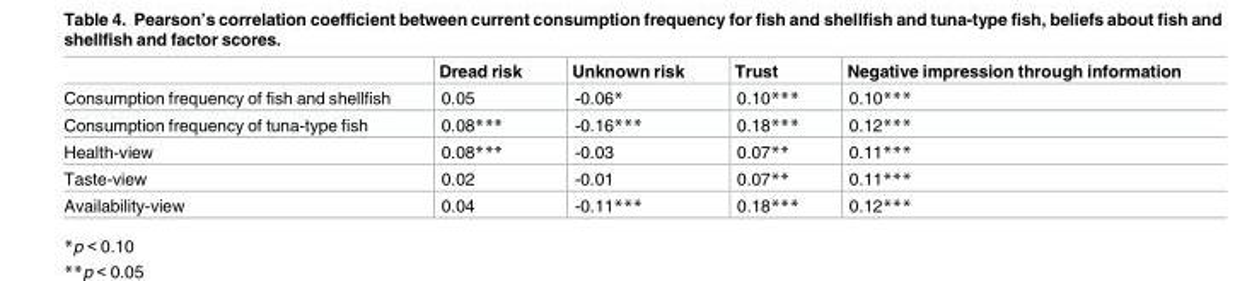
<table><thead><tr><td></td><td>Dread risk</td><td>Unknown risk</td><td>Trust</td><td>Negative impression through information</td></tr></thead><tbody><tr><td>Consumption frequency of fish and shellfish</td><td>0.05</td><td>-0.06*</td><td>0.10***</td><td>0.10***</td></tr><tr><td>Consumption frequency of tuna-type fish</td><td>0.08***</td><td>-0.16***</td><td>0.18***</td><td>0.12***</td></tr><tr><td>Health-view</td><td>0.08***</td><td>-0.03</td><td>0.07**</td><td>0.11***</td></tr><tr><td>Taste-view</td><td>0.02</td><td>-0.01</td><td>0.07**</td><td>0.11***</td></tr><tr><td>Availability-view</td><td>0.04</td><td>-0.11***</td><td>0.18***</td><td>0.12***</td></tr></tbody></table>